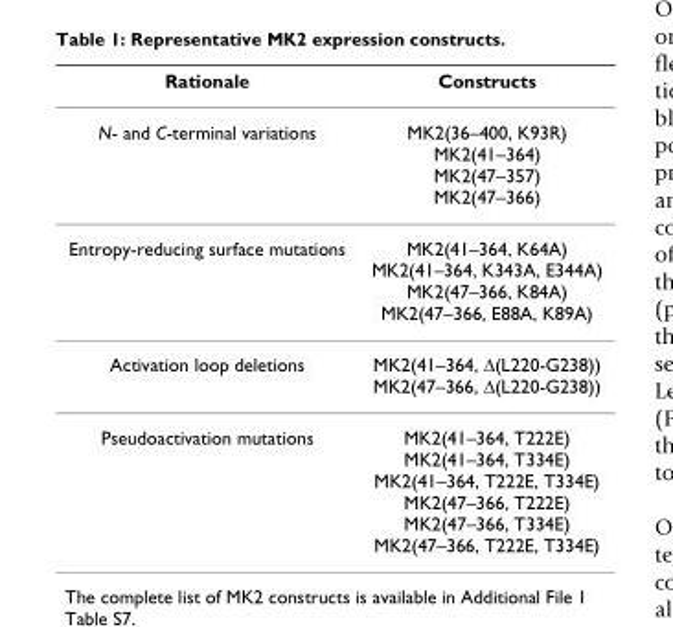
<table><thead><tr><td>Rationale</td><td>Constructs</td></tr></thead><tbody><tr><td>N- and C-terminal variations</td><td>MK2(36–400, K93R) MK2(41–364) MK2(47–357) MK2(47–366)</td></tr><tr><td>Entropy-reducing surface mutations</td><td>MK2(41–364, K64A) MK2(41–364, K343A, E344A) MK2(47–366, K84A) MK2(47–366, E88A, K89A)</td></tr><tr><td>Activation loop deletions</td><td>MK2(41–364, Δ(L220-G238)) MK2(47–366, Δ(L220-G238))</td></tr><tr><td>Pseudoactivation mutations</td><td>MK2(41–364, T222E) MK2(41–364, T334E) MK2(41–364, T222E, T334E) MK2(47–366, T222E) MK2(47–366, T334E) MK2(47–366, T222E, T334E)</td></tr></tbody></table>